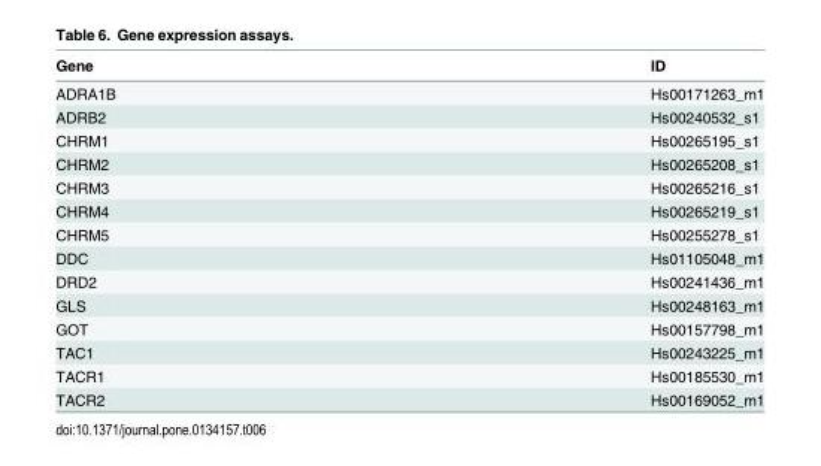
<table><thead><tr><td>Gene</td><td>ID</td></tr></thead><tbody><tr><td>ADRA1B</td><td>Hs00171263_m1</td></tr><tr><td>ADRB2</td><td>Hs00240532_s1</td></tr><tr><td>CHRM1</td><td>Hs00265195_s1</td></tr><tr><td>CHRM2</td><td>Hs00265208_s1</td></tr><tr><td>CHRM3</td><td>Hs00265216_s1</td></tr><tr><td>CHRM4</td><td>Hs00265219_s1</td></tr><tr><td>CHRM5</td><td>Hs00255278_s1</td></tr><tr><td>DDC</td><td>Hs01105048_m1</td></tr><tr><td>DRD2</td><td>Hs00241436_m1</td></tr><tr><td>GLS</td><td>Hs00248163_m1</td></tr><tr><td>GOT</td><td>Hs00157798_m1</td></tr><tr><td>TAC1</td><td>Hs00243225_m1</td></tr><tr><td>TACR1</td><td>Hs00185530_m1</td></tr><tr><td>TACR2</td><td>Hs00169052_m1</td></tr></tbody></table>